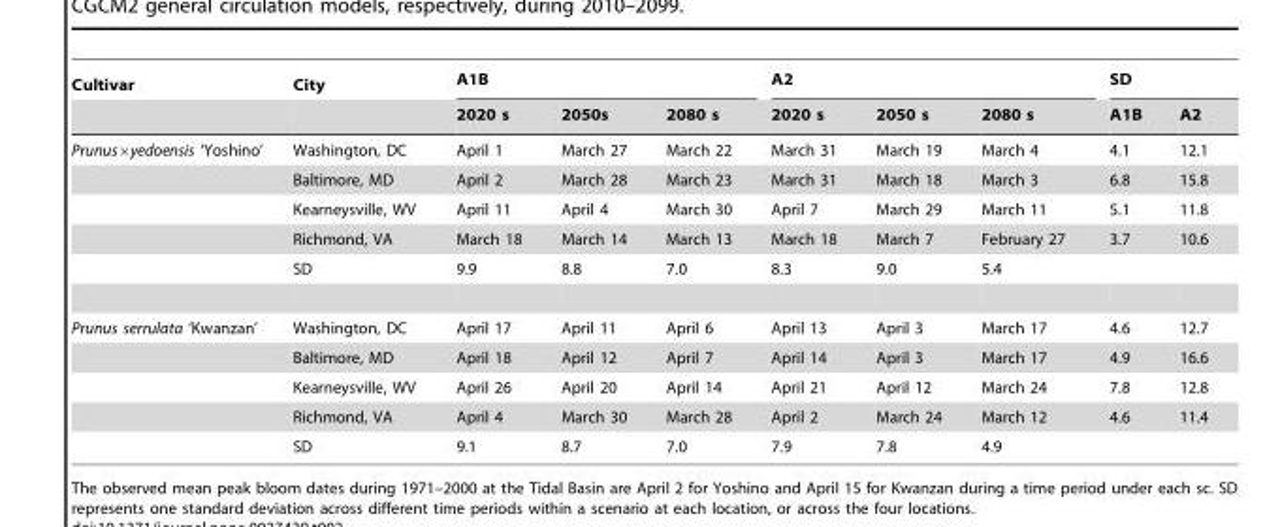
<table><thead><tr><td rowspan="2">Cultivar</td><td rowspan="2">City</td><td colspan="3">A1B</td><td colspan="3">A2</td><td colspan="2">SD</td></tr><tr><td>2020 s</td><td>2050s</td><td>2080 s</td><td>2020 s</td><td>2050 s</td><td>2080 s</td><td>A1B</td><td>A2</td></tr></thead><tbody><tr><td rowspan="5">Prunus×yedoensis ‘Yoshino’</td><td>Washington, DC</td><td>April 1</td><td>March 27</td><td>March 22</td><td>March 31</td><td>March 19</td><td>March 4</td><td>4.1</td><td>12.1</td></tr><tr><td>Baltimore, MD</td><td>April 2</td><td>March 28</td><td>March 23</td><td>March 31</td><td>March 18</td><td>March 3</td><td>6.8</td><td>15.8</td></tr><tr><td>Kearneysville, WV</td><td>April 11</td><td>April 4</td><td>March 30</td><td>April 7</td><td>March 29</td><td>March 11</td><td>5.1</td><td>11.8</td></tr><tr><td>Richmond, VA</td><td>March 18</td><td>March 14</td><td>March 13</td><td>March 18</td><td>March 7</td><td>February 27</td><td>3.7</td><td>10.6</td></tr><tr><td>SD</td><td>9.9</td><td>8.8</td><td>7.0</td><td>8.3</td><td>9.0</td><td>5.4</td><td></td><td></td></tr><tr><td rowspan="5">Prunus serrulata ‘Kwanzan’</td><td>Washington, DC</td><td>April 17</td><td>April 11</td><td>April 6</td><td>April 13</td><td>April 3</td><td>March 17</td><td>4.6</td><td>12.7</td></tr><tr><td>Baltimore, MD</td><td>April 18</td><td>April 12</td><td>April 7</td><td>April 14</td><td>April 3</td><td>March 17</td><td>4.9</td><td>16.6</td></tr><tr><td>Kearneysville, WV</td><td>April 26</td><td>April 20</td><td>April 14</td><td>April 21</td><td>April 12</td><td>March 24</td><td>7.8</td><td>12.8</td></tr><tr><td>Richmond, VA</td><td>April 4</td><td>March 30</td><td>March 28</td><td>April 2</td><td>March 24</td><td>March 12</td><td>4.6</td><td>11.4</td></tr><tr><td>SD</td><td>9.1</td><td>8.7</td><td>7.0</td><td>7.9</td><td>7.8</td><td>4.9</td><td></td><td></td></tr></tbody></table>